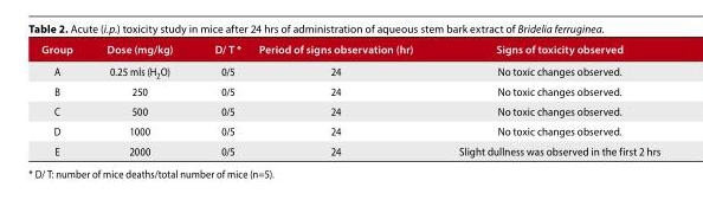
<table><thead><tr><td>Group</td><td>Dose (mg/kg)</td><td>D/ T *</td><td>Period of signs observation (hr)</td><td>Signs of toxicity observed</td></tr></thead><tbody><tr><td>A</td><td>0.25 mls (H<sub>2</sub>O)</td><td>0/5</td><td>24</td><td>No toxic changes observed.</td></tr><tr><td>B</td><td>250</td><td>0/5</td><td>24</td><td>No toxic changes observed.</td></tr><tr><td>C</td><td>500</td><td>0/5</td><td>24</td><td>No toxic changes observed.</td></tr><tr><td>D</td><td>1000</td><td>0/5</td><td>24</td><td>No toxic changes observed.</td></tr><tr><td>E</td><td>2000</td><td>0/5</td><td>24</td><td>Slight dullness was observed in the first 2 hrs</td></tr></tbody></table>